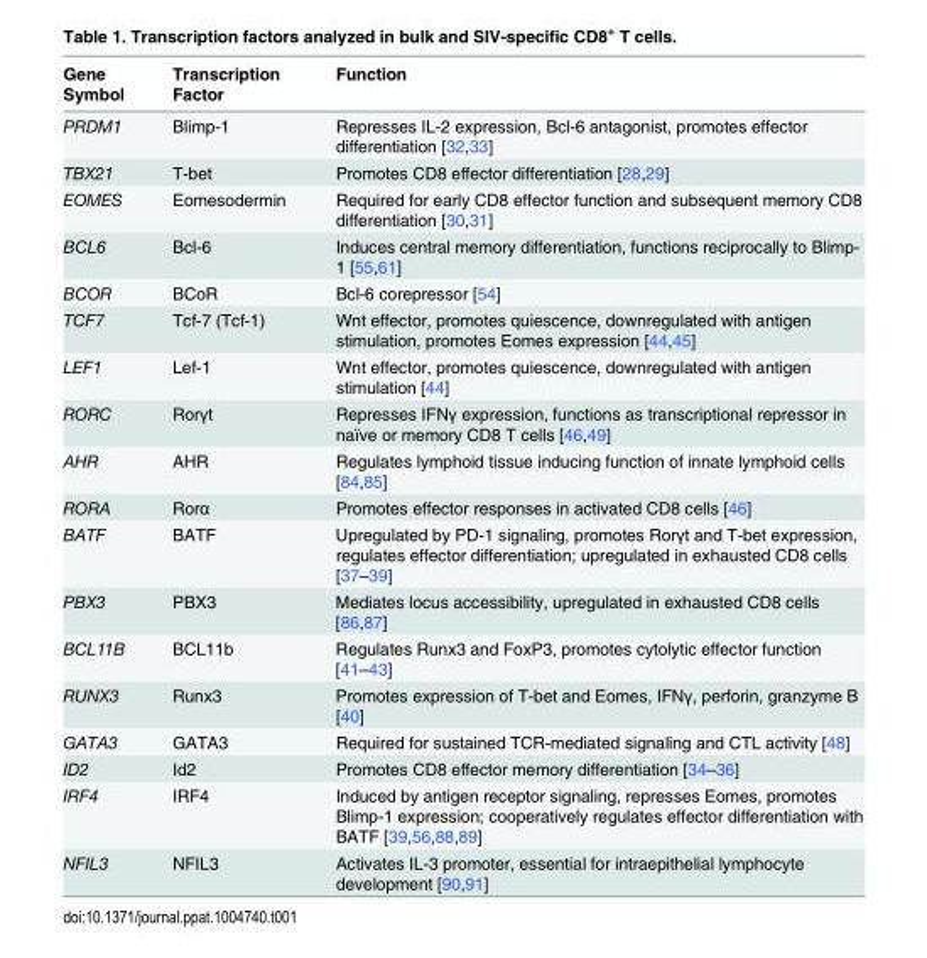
<table><thead><tr><td>Gene Symbol</td><td>Transcription Factor</td><td>Function</td></tr></thead><tbody><tr><td>PRDM1</td><td>Blimp-1</td><td>Represses IL-2 expression, Bcl-6 antagonist, promotes effector differentiation [32,33]</td></tr><tr><td>TBX21</td><td>T-bet</td><td>Promotes CD8 effector differentiation [28,29]</td></tr><tr><td>EOMES</td><td>Eomesodermin</td><td>Required for early CD8 effector function and subsequent memory CD8 differentiation [30,31]</td></tr><tr><td>BCL6</td><td>Bcl-6</td><td>Induces central memory differentiation, functions reciprocally to Blimp- 1 [55,61]</td></tr><tr><td>BCOR</td><td>BCoR</td><td>Bcl-6 corepressor [54]</td></tr><tr><td>TCF7</td><td>Tcf-7 (Tcf-1)</td><td>Wnt effector, promotes quiescence, downregulated with antigen stimulation, promotes Eomes expression [44,45]</td></tr><tr><td>LEF1</td><td>Lef-1</td><td>Wnt effector, promotes quiescence, downregulated with antigen stimulation [44]</td></tr><tr><td>RORC</td><td>Rorγt</td><td>Represses IFNγ expression, functions as transcriptional repressor in naïve or memory CD8 T cells [46,49]</td></tr><tr><td>AHR</td><td>AHR</td><td>Regulates lymphoid tissue inducing function of innate lymphoid cells [84,85]</td></tr><tr><td>RORA</td><td>Rorα</td><td>Promotes effector responses in activated CD8 cells [46]</td></tr><tr><td>BATF</td><td>BATF</td><td>Upregulated by PD-1 signaling, promotes Rorγt and T-bet expression, regulates effector differentiation; upregulated in exhausted CD8 cells [37–39]</td></tr><tr><td>PBX3</td><td>PBX3</td><td>Mediates locus accessibility, upregulated in exhausted CD8 cells [86,87]</td></tr><tr><td>BCL11B</td><td>BCL11b</td><td>Regulates Runx3 and FoxP3, promotes cytolytic effector function [41–43]</td></tr><tr><td>RUNX3</td><td>Runx3</td><td>Promotes expression of T-bet and Eomes, IFNγ, perforin, granzyme B [40]</td></tr><tr><td>GATA3</td><td>GATA3</td><td>Required for sustained TCR-mediated signaling and CTL activity [48]</td></tr><tr><td>ID2</td><td>Id2</td><td>Promotes CD8 effector memory differentiation [34–36]</td></tr><tr><td>IRF4</td><td>IRF4</td><td>Induced by antigen receptor signaling, represses Eomes, promotes Blimp-1 expression; cooperatively regulates effector differentiation with BATF [39,56,88,89]</td></tr><tr><td>NFIL3</td><td>NFIL3</td><td>Activates IL-3 promoter, essential for intraepithelial lymphocyte development [90,91]</td></tr></tbody></table>